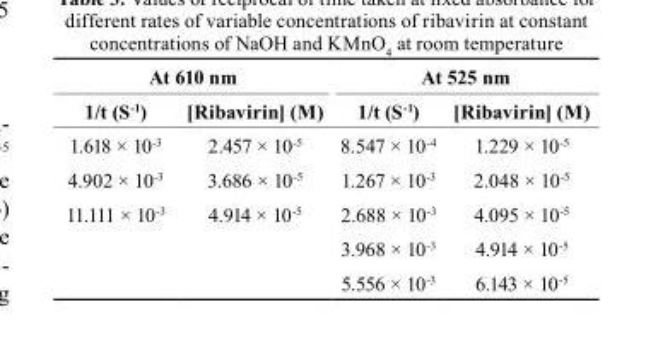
<table><thead><tr><td colspan="2">At 610 nm</td><td colspan="2">At 525 nm</td></tr><tr><td>1/t (S<sup>-1</sup>)</td><td>[ribavirin] (M)</td><td>1/t (S<sup>-1</sup>)</td><td>[ribavirin] (M)</td></tr></thead><tbody><tr><td>1.618 × 10<sup>-3</sup></td><td>2.457 × 10<sup>-5</sup></td><td>8.547 × 10<sup>-4</sup></td><td>1.229 × 10<sup>-5</sup></td></tr><tr><td>4.902 × 10<sup>-3</sup></td><td>3.686 × 10<sup>-5</sup></td><td>1.267 × 10<sup>-3</sup></td><td>2.048 × 10<sup>-5</sup></td></tr><tr><td rowspan="3">11.111 × 10<sup>-3</sup></td><td>4.914 × 10<sup>-5</sup></td><td>2.688 × 10<sup>-3</sup></td><td>4.095 × 10<sup>-5</sup></td></tr><tr><td></td><td>3.968 × 10<sup>-3</sup></td><td>4.914 × 10<sup>-5</sup></td></tr><tr><td></td><td>5.556 × 10<sup>-3</sup></td><td>6.143 × 10<sup>-5</sup></td></tr></tbody></table>